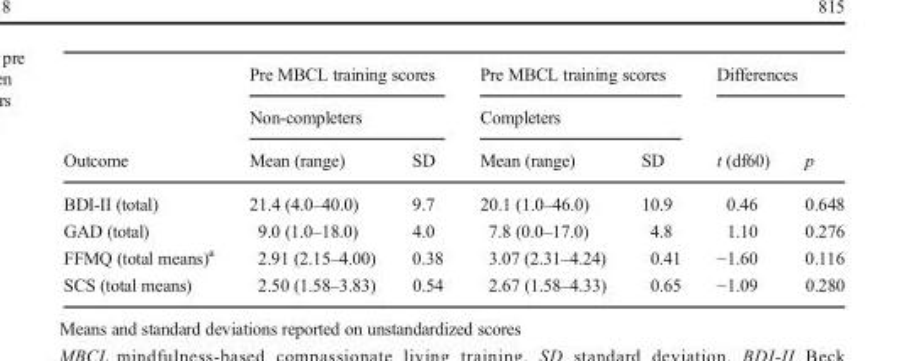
<table><thead><tr><td rowspan="3">Outcome</td><td rowspan="2" colspan="2">Pre MBCL training scores Non-completers</td><td rowspan="2" colspan="2">Pre MBCL training scores Completers</td><td colspan="2">Differences</td></tr><tr><td rowspan="2">t (df60)</td><td rowspan="2">p</td></tr><tr><td>Mean (range)</td><td>SD</td><td>Mean (range)</td><td>SD</td></tr></thead><tbody><tr><td>BDI-II (total)</td><td>21.4 (4.0–40.0)</td><td>9.7</td><td>20.1 (1.0–46.0)</td><td>10.9</td><td>0.46</td><td>0.648</td></tr><tr><td>GAD (total)</td><td>9.0 (1.0–18.0)</td><td>4.0</td><td>7.8 (0.0–17.0)</td><td>4.8</td><td>1.10</td><td>0.276</td></tr><tr><td>FFMQ (total means)<sup>a</sup></td><td>2.91 (2.15–4.00)</td><td>0.38</td><td>3.07 (2.31–4.24)</td><td>0.41</td><td>−1.60</td><td>0.116</td></tr><tr><td>SCS (total means)</td><td>2.50 (1.58–3.83)</td><td>0.54</td><td>2.67 (1.58–4.33)</td><td>0.65</td><td>−1.09</td><td>0.280</td></tr></tbody></table>